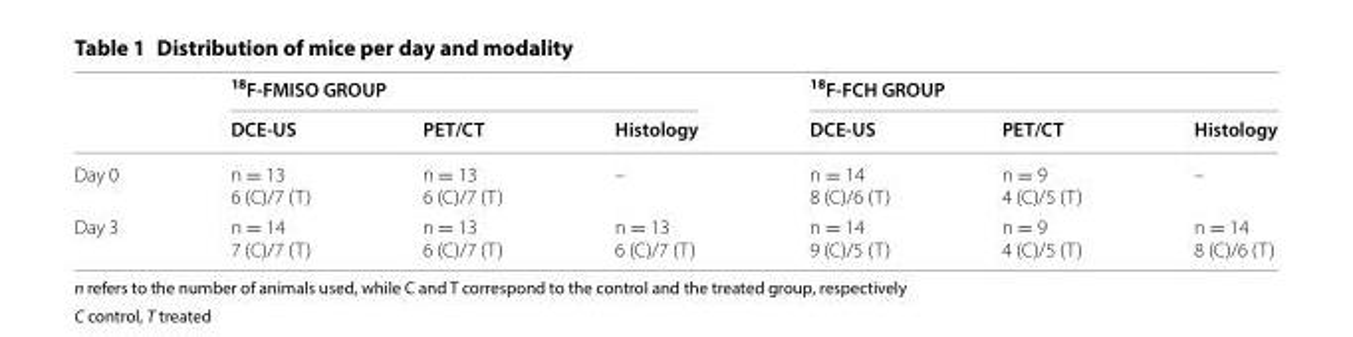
<table><thead><tr><td rowspan="2"></td><td colspan="3"><sup>18</sup>F-FMISO GROUP</td><td colspan="3"><sup>18</sup>F-FCH GROUP</td></tr><tr><td>DCE-US</td><td>PET/CT</td><td>Histology</td><td>DCE-US</td><td>PET/CT</td><td>Histology</td></tr></thead><tbody><tr><td>Day 0</td><td>n = 13 6 (C)/7 (T)</td><td>n = 13 6 (C)/7 (T)</td><td>–</td><td>n = 14 8 (C)/6 (T)</td><td>n = 9 4 (C)/5 (T)</td><td>–</td></tr><tr><td>Day 3</td><td>n = 14 7 (C)/7 (T)</td><td>n = 13 6 (C)/7 (T)</td><td>n = 13 6 (C)/7 (T)</td><td>n = 14 9 (C)/5 (T)</td><td>n = 9 4 (C)/5 (T)</td><td>n = 14 8 (C)/6 (T)</td></tr></tbody></table>